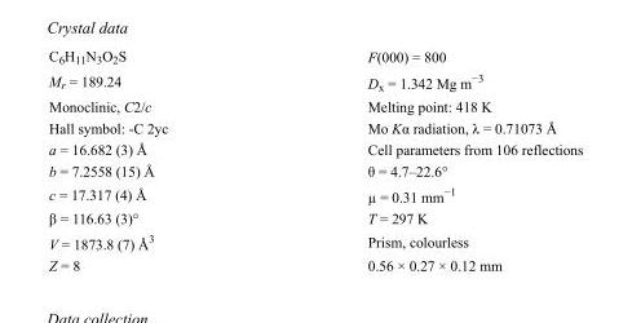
<table><tbody><tr><td>C<sub>6</sub>H<sub>11</sub>N<sub>3</sub>O<sub>2</sub>S</td><td>F(000) = 800</td></tr><tr><td>M<sub>r</sub> = 189.24</td><td>D<sub>x</sub> = 1.342 Mg m<sup>−3</sup></td></tr><tr><td>Monoclinic, C2/c</td><td>Melting point: 418 K</td></tr><tr><td>Hall symbol: -C 2yc</td><td>Mo Kα radiation, λ = 0.71073 Å</td></tr><tr><td>a = 16.682 (3) Å</td><td>Cell parameters from 106 reflections</td></tr><tr><td>b = 7.2558 (15) Å</td><td>θ = 4.7–22.6°</td></tr><tr><td>c = 17.317 (4) Å</td><td>µ = 0.31 mm<sup>−1</sup></td></tr><tr><td>β = 116.63 (3)°</td><td>T = 297 K</td></tr><tr><td>V = 1873.8 (7) Å<sup>3</sup></td><td>Prism, colourless</td></tr><tr><td>Z = 8</td><td>0.56 × 0.27 × 0.12 mm</td></tr></tbody></table>